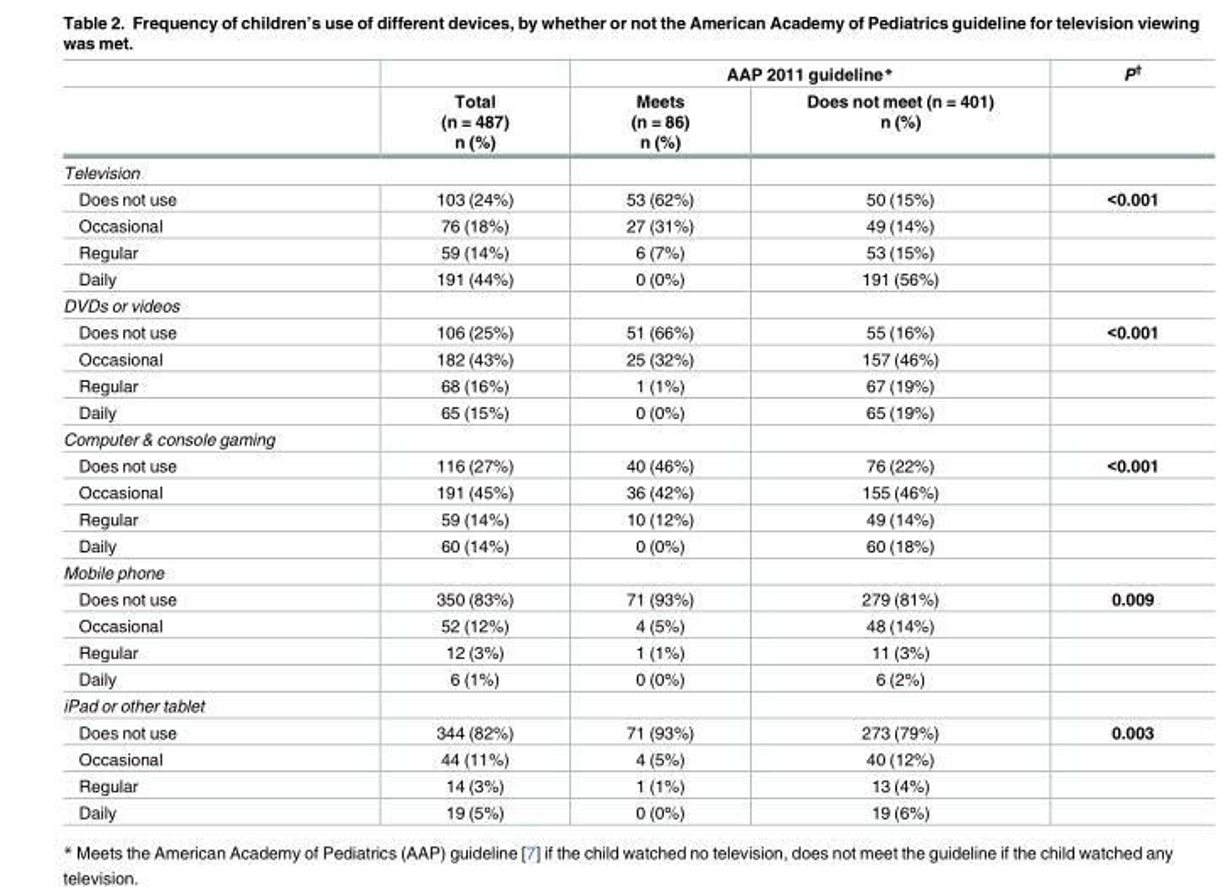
<table><thead><tr><td rowspan="2"></td><td rowspan="2">Total (n = 487) n (%)</td><td colspan="2">AAP 2011 guideline*</td><td rowspan="2">P<sup>†</sup></td></tr><tr><td>Meets (n = 86) n (%)</td><td>Does not meet (n = 401) n (%)</td></tr></thead><tbody><tr><td colspan="5">Television</td></tr><tr><td>Does not use</td><td>103 (24%)</td><td>53 (62%)</td><td>50 (15%)</td><td>&lt;0.001</td></tr><tr><td>Occasional</td><td>76 (18%)</td><td>27 (31%)</td><td>49 (14%)</td><td></td></tr><tr><td>Regular</td><td>59 (14%)</td><td>6 (7%)</td><td>53 (15%)</td><td></td></tr><tr><td>Daily</td><td>191 (44%)</td><td>0 (0%)</td><td>191 (56%)</td><td></td></tr><tr><td colspan="5">DVDs or videos</td></tr><tr><td>Does not use</td><td>106 (25%)</td><td>51 (66%)</td><td>55 (16%)</td><td>&lt;0.001</td></tr><tr><td>Occasional</td><td>182 (43%)</td><td>25 (32%)</td><td>157 (46%)</td><td></td></tr><tr><td>Regular</td><td>68 (16%)</td><td>1 (1%)</td><td>67 (19%)</td><td></td></tr><tr><td>Daily</td><td>65 (15%)</td><td>0 (0%)</td><td>65 (19%)</td><td></td></tr><tr><td colspan="5">Computer &amp; console gaming</td></tr><tr><td>Does not use</td><td>116 (27%)</td><td>40 (46%)</td><td>76 (22%)</td><td>&lt;0.001</td></tr><tr><td>Occasional</td><td>191 (45%)</td><td>36 (42%)</td><td>155 (46%)</td><td></td></tr><tr><td>Regular</td><td>59 (14%)</td><td>10 (12%)</td><td>49 (14%)</td><td></td></tr><tr><td>Daily</td><td>60 (14%)</td><td>0 (0%)</td><td>60 (18%)</td><td></td></tr><tr><td colspan="5">Mobile phone</td></tr><tr><td>Does not use</td><td>350 (83%)</td><td>71 (93%)</td><td>279 (81%)</td><td>0.009</td></tr><tr><td>Occasional</td><td>52 (12%)</td><td>4 (5%)</td><td>48 (14%)</td><td></td></tr><tr><td>Regular</td><td>12 (3%)</td><td>1 (1%)</td><td>11 (3%)</td><td></td></tr><tr><td>Daily</td><td>6 (1%)</td><td>0 (0%)</td><td>6 (2%)</td><td></td></tr><tr><td colspan="5">iPad or other tablet</td></tr><tr><td>Does not use</td><td>344 (82%)</td><td>71 (93%)</td><td>273 (79%)</td><td>0.003</td></tr><tr><td>Occasional</td><td>44 (11%)</td><td>4 (5%)</td><td>40 (12%)</td><td></td></tr><tr><td>Regular</td><td>14 (3%)</td><td>1 (1%)</td><td>13 (4%)</td><td></td></tr><tr><td>Daily</td><td>19 (5%)</td><td>0 (0%)</td><td>19 (6%)</td><td></td></tr></tbody></table>